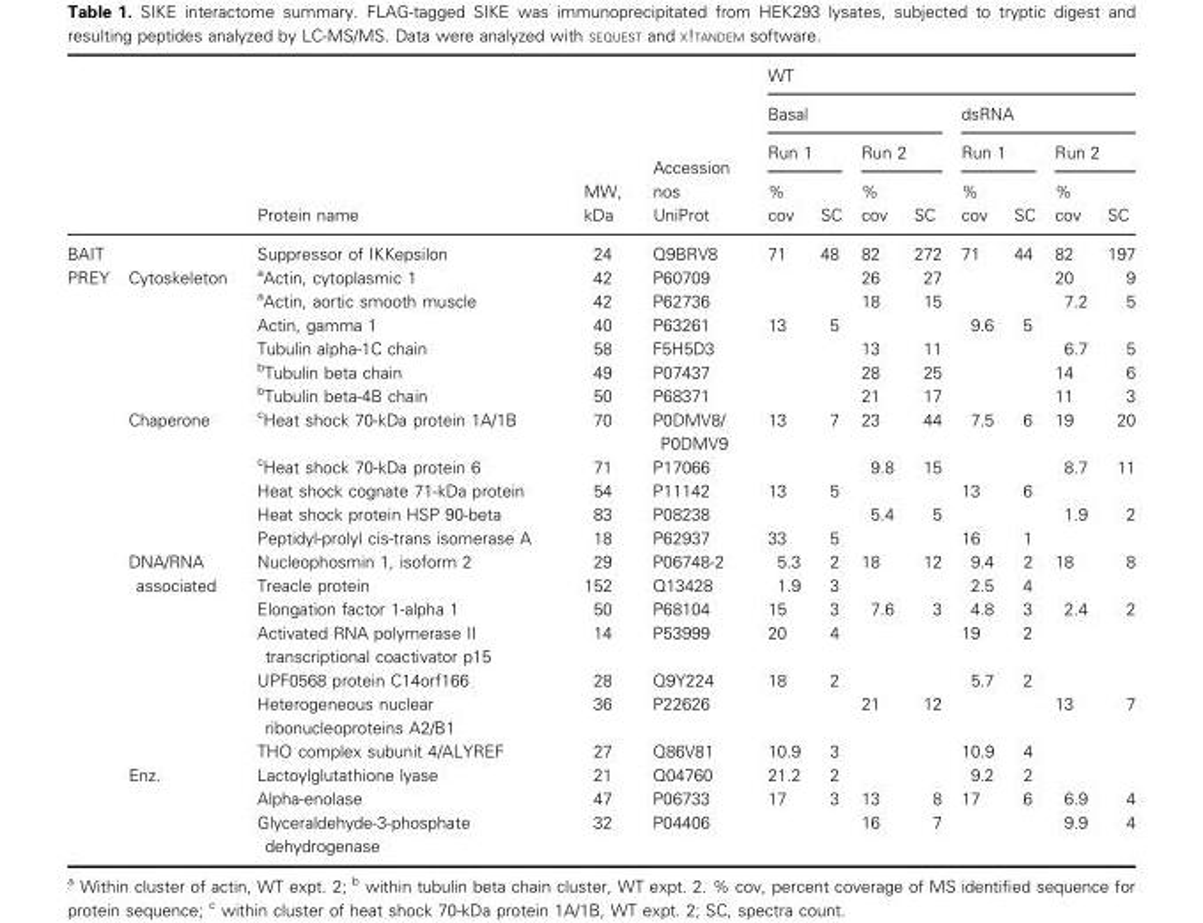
<table><thead><tr><td rowspan="4"></td><td rowspan="4"></td><td rowspan="4">Protein name</td><td rowspan="4">MW, kDa</td><td rowspan="4">Accession nos UniProt</td><td colspan="8">WT</td></tr><tr><td colspan="4">Basal</td><td colspan="4">dsRNA</td></tr><tr><td colspan="2">Run 1</td><td colspan="2">Run 2</td><td colspan="2">Run 1</td><td colspan="2">Run 2</td></tr><tr><td>% cov</td><td>SC</td><td>% cov</td><td>SC</td><td>% cov</td><td>SC</td><td>% cov</td><td>SC</td></tr></thead><tbody><tr><td>BAIT</td><td></td><td>Suppressor of IKKepsilon</td><td>24</td><td>Q9BRV8</td><td>71</td><td>48</td><td>82</td><td>272</td><td>71</td><td>44</td><td>82</td><td>197</td></tr><tr><td rowspan="21">PREY</td><td rowspan="5">Cytoskeleton</td><td>aActin, cytoplasmic 1</td><td>42</td><td>P60709</td><td></td><td></td><td>26</td><td>27</td><td></td><td></td><td>20</td><td>9</td></tr><tr><td>aActin, aortic smooth muscle</td><td>42</td><td>P62736</td><td></td><td></td><td>18</td><td>15</td><td></td><td></td><td>7.2</td><td>5</td></tr><tr><td>Actin, gamma 1</td><td>40</td><td>P63261</td><td>13</td><td>5</td><td></td><td></td><td>9.6</td><td>5</td><td></td><td></td></tr><tr><td>Tubulin alpha-1C chain</td><td>58</td><td>F5H5D3</td><td></td><td></td><td>13</td><td>11</td><td></td><td></td><td>6.7</td><td>5</td></tr><tr><td>bTubulin beta chain</td><td>49</td><td>P07437</td><td></td><td></td><td>28</td><td>25</td><td></td><td></td><td>14</td><td>6</td></tr><tr><td></td><td>bTubulin beta-4B chain</td><td>50</td><td>P68371</td><td></td><td></td><td>21</td><td>17</td><td></td><td></td><td>11</td><td>3</td></tr><tr><td rowspan="5">Chaperone</td><td>cHeat shock 70-kDa protein 1A/1B</td><td>70</td><td>P0DMV8/ P0DMV9</td><td>13</td><td>7</td><td>23</td><td>44</td><td>7.5</td><td>6</td><td>19</td><td>20</td></tr><tr><td>cHeat shock 70-kDa protein 6</td><td>71</td><td>P17066</td><td></td><td></td><td>9.8</td><td>15</td><td></td><td></td><td>8.7</td><td>11</td></tr><tr><td>Heat shock cognate 71-kDa protein</td><td>54</td><td>P11142</td><td>13</td><td>5</td><td></td><td></td><td>13</td><td>6</td><td></td><td></td></tr><tr><td>Heat shock protein HSP 90-beta</td><td>83</td><td>P08238</td><td></td><td></td><td>5.4</td><td>5</td><td></td><td></td><td>1.9</td><td>2</td></tr><tr><td>Peptidyl-prolyl cis-trans isomerase A</td><td>18</td><td>P62937</td><td>33</td><td>5</td><td></td><td></td><td>16</td><td>1</td><td></td><td></td></tr><tr><td rowspan="7">DNA/RNA associated</td><td>Nucleophosmin 1, isoform 2</td><td>29</td><td>P06748-2</td><td>5.3</td><td>2</td><td>18</td><td>12</td><td>9.4</td><td>2</td><td>18</td><td>8</td></tr><tr><td>Treacle protein</td><td>152</td><td>Q13428</td><td>1.9</td><td>3</td><td></td><td></td><td>2.5</td><td>4</td><td></td><td></td></tr><tr><td>Elongation factor 1-alpha 1</td><td>50</td><td>P68104</td><td>15</td><td>3</td><td>7.6</td><td>3</td><td>4.8</td><td>3</td><td>2.4</td><td>2</td></tr><tr><td>Activated RNA polymerase II transcriptional coactivator p15</td><td>14</td><td>P53999</td><td>20</td><td>4</td><td></td><td></td><td>19</td><td>2</td><td></td><td></td></tr><tr><td>UPF0568 protein C14orf166</td><td>28</td><td>Q9Y224</td><td>18</td><td>2</td><td></td><td></td><td>5.7</td><td>2</td><td></td><td></td></tr><tr><td>Heterogeneous nuclear ribonucleoproteins A2/B1</td><td>36</td><td>P22626</td><td></td><td></td><td>21</td><td>12</td><td></td><td></td><td>13</td><td>7</td></tr><tr><td>THO complex subunit 4/ALYREF</td><td>27</td><td>Q86V81</td><td>10.9</td><td>3</td><td></td><td></td><td>10.9</td><td>4</td><td></td><td></td></tr><tr><td rowspan="3">Enz.</td><td>Lactoylglutathione lyase</td><td>21</td><td>Q04760</td><td>21.2</td><td>2</td><td></td><td></td><td>9.2</td><td>2</td><td></td><td></td></tr><tr><td>Alpha-enolase</td><td>47</td><td>P06733</td><td>17</td><td>3</td><td>13</td><td>8</td><td>17</td><td>6</td><td>6.9</td><td>4</td></tr><tr><td>Glyceraldehyde-3-phosphate dehydrogenase</td><td>32</td><td>P04406</td><td></td><td></td><td>16</td><td>7</td><td></td><td></td><td>9.9</td><td>4</td></tr></tbody></table>